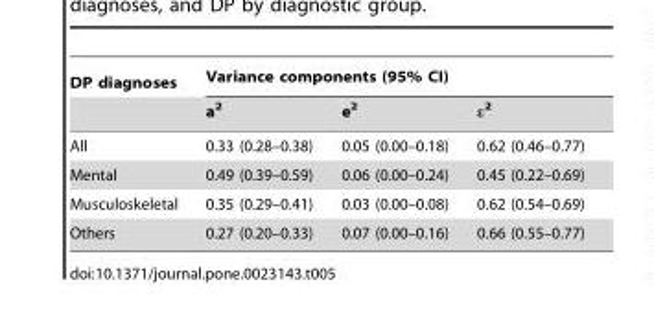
<table><thead><tr><td rowspan="2">DP diagnoses</td><td colspan="3">Variance components (95% CI)</td></tr><tr><td>a<sup>2</sup></td><td>e<sup>2</sup></td><td>ε<sup>2</sup></td></tr></thead><tbody><tr><td>All</td><td>0.33 (0.28–0.38)</td><td>0.05 (0.00–0.18)</td><td>0.62 (0.46–0.77)</td></tr><tr><td>Mental</td><td>0.49 (0.39–0.59)</td><td>0.06 (0.00–0.24)</td><td>0.45 (0.22–0.69)</td></tr><tr><td>Musculoskeletal</td><td>0.35 (0.29–0.41)</td><td>0.03 (0.00–0.08)</td><td>0.62 (0.54–0.69)</td></tr><tr><td>Others</td><td>0.27 (0.20–0.33)</td><td>0.07 (0.00–0.16)</td><td>0.66 (0.55–0.77)</td></tr></tbody></table>